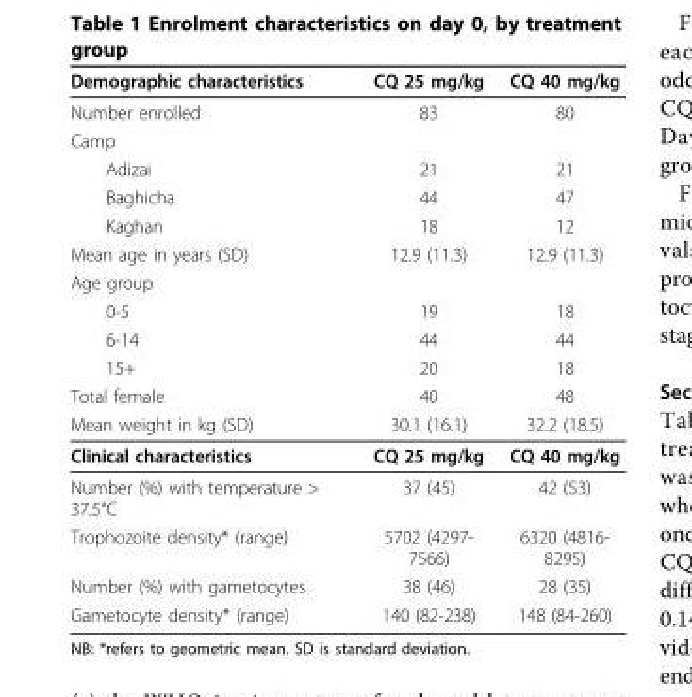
<table><thead><tr><td>Demographic characteristics</td><td>CQ 25 mg/kg</td><td>CQ 40 mg/kg</td></tr></thead><tbody><tr><td>Number enrolled</td><td>83</td><td>80</td></tr><tr><td colspan="3">Camp</td></tr><tr><td>Adizai</td><td>21</td><td>21</td></tr><tr><td>Baghicha</td><td>44</td><td>47</td></tr><tr><td>Kaghan</td><td>18</td><td>12</td></tr><tr><td>Mean age in years (SD)</td><td>12.9 (11.3)</td><td>12.9 (11.3)</td></tr><tr><td colspan="3">Age group</td></tr><tr><td>0-5</td><td>19</td><td>18</td></tr><tr><td>6-14</td><td>44</td><td>44</td></tr><tr><td>15+</td><td>20</td><td>18</td></tr><tr><td>Total female</td><td>40</td><td>48</td></tr><tr><td>Mean weight in kg (SD)</td><td>30.1 (16.1)</td><td>32.2 (18.5)</td></tr><tr><td>Clinical characteristics</td><td>CQ 25 mg/kg</td><td>CQ 40 mg/kg</td></tr><tr><td>Number (%) with temperature &gt; 37.5°C</td><td>37 (45)</td><td>42 (53)</td></tr><tr><td>Trophozoite density* (range)</td><td>5702 (4297- 7566)</td><td>6320 (4816- 8295)</td></tr><tr><td>Number (%) with gametocytes</td><td>38 (46)</td><td>28 (35)</td></tr><tr><td>Gametocyte density* (range)</td><td>140 (82-238)</td><td>148 (84-260)</td></tr></tbody></table>